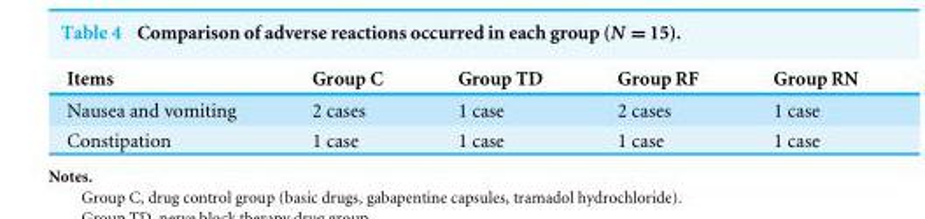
<table><thead><tr><td>Items</td><td>Group C</td><td>Group TD</td><td>Group RF</td><td>Group RN</td></tr></thead><tbody><tr><td>Nausea and vomiting</td><td>2 cases</td><td>1 case</td><td>2 cases</td><td>1 case</td></tr><tr><td>Constipation</td><td>1 case</td><td>1 case</td><td>1 case</td><td>1 case</td></tr></tbody></table>